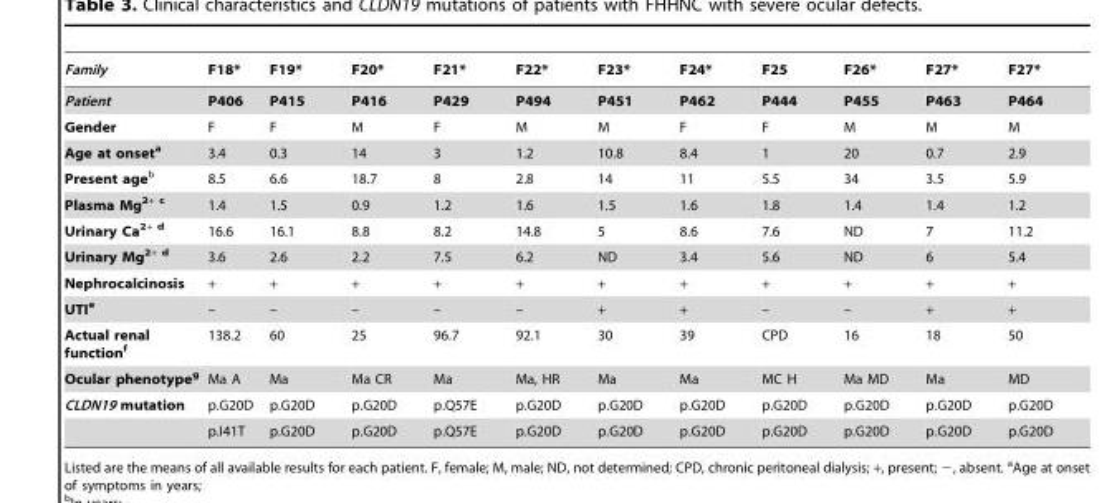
<table><thead><tr><td>Family</td><td>F18*</td><td>F19*</td><td>F20*</td><td>F21*</td><td>F22*</td><td>F23*</td><td>F24*</td><td>F25</td><td>F26*</td><td>F27*</td><td>F27*</td></tr></thead><tbody><tr><td>Patient</td><td>P406</td><td>P415</td><td>P416</td><td>P429</td><td>P494</td><td>P451</td><td>P462</td><td>P444</td><td>P455</td><td>P463</td><td>P464</td></tr><tr><td>Gender</td><td>F</td><td>F</td><td>M</td><td>F</td><td>M</td><td>M</td><td>F</td><td>F</td><td>M</td><td>M</td><td>M</td></tr><tr><td>Age at onset<sup>a</sup></td><td>3.4</td><td>0.3</td><td>14</td><td>3</td><td>1.2</td><td>10.8</td><td>8.4</td><td>1</td><td>20</td><td>0.7</td><td>2.9</td></tr><tr><td>Present ageb</td><td>8.5</td><td>6.6</td><td>18.7</td><td>8</td><td>2.8</td><td>14</td><td>11</td><td>5.5</td><td>34</td><td>3.5</td><td>5.9</td></tr><tr><td>Plasma Mg<sup>2+</sup> c</td><td>1.4</td><td>1.5</td><td>0.9</td><td>1.2</td><td>1.6</td><td>1.5</td><td>1.6</td><td>1.8</td><td>1.4</td><td>1.4</td><td>1.2</td></tr><tr><td>Urinary Ca<sup>2+</sup> d</td><td>16.6</td><td>16.1</td><td>8.8</td><td>8.2</td><td>14.8</td><td>5</td><td>8.6</td><td>7.6</td><td>ND</td><td>7</td><td>11.2</td></tr><tr><td>Urinary Mg<sup>2+</sup> d</td><td>3.6</td><td>2.6</td><td>2.2</td><td>7.5</td><td>6.2</td><td>ND</td><td>3.4</td><td>5.6</td><td>ND</td><td>6</td><td>5.4</td></tr><tr><td>Nephrocalcinosis</td><td>+</td><td>+</td><td>+</td><td>+</td><td>+</td><td>+</td><td>+</td><td>+</td><td>+</td><td>+</td><td>+</td></tr><tr><td>UTIe</td><td>–</td><td>–</td><td>–</td><td>–</td><td>–</td><td>+</td><td>+</td><td>–</td><td>–</td><td>+</td><td>+</td></tr><tr><td>Actual renal functionf</td><td>138.2</td><td>60</td><td>25</td><td>96.7</td><td>92.1</td><td>30</td><td>39</td><td>CPD</td><td>16</td><td>18</td><td>50</td></tr><tr><td>Ocular phenotypeg</td><td>Ma A</td><td>Ma</td><td>Ma CR</td><td>Ma</td><td>Ma, HR</td><td>Ma</td><td>Ma</td><td>MC H</td><td>Ma MD</td><td>Ma</td><td>MD</td></tr><tr><td rowspan="2">CLDN19 mutation</td><td>p.G20D</td><td>p.G20D</td><td>p.G20D</td><td>p.Q57E</td><td>p.G20D</td><td>p.G20D</td><td>p.G20D</td><td>p.G20D</td><td>p.G20D</td><td>p.G20D</td><td>p.G20D</td></tr><tr><td>p.I41T</td><td>p.G20D</td><td>p.G20D</td><td>p.Q57E</td><td>p.G20D</td><td>p.G20D</td><td>p.G20D</td><td>p.G20D</td><td>p.G20D</td><td>p.G20D</td><td>p.G20D</td></tr></tbody></table>